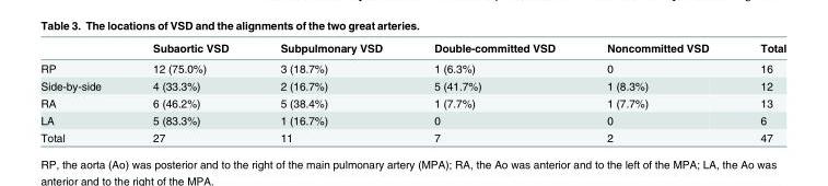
<table><thead><tr><td></td><td>Subaortic VSD</td><td>Subpulmonary VSD</td><td>Double-committed VSD</td><td>Noncommitted VSD</td><td>Total</td></tr></thead><tbody><tr><td>RP</td><td>12 (75.0%)</td><td>3 (18.7%)</td><td>1 (6.3%)</td><td>0</td><td>16</td></tr><tr><td>Side-by-side</td><td>4 (33.3%)</td><td>2 (16.7%)</td><td>5 (41.7%)</td><td>1 (8.3%)</td><td>12</td></tr><tr><td>RA</td><td>6 (46.2%)</td><td>5 (38.4%)</td><td>1 (7.7%)</td><td>1 (7.7%)</td><td>13</td></tr><tr><td>LA</td><td>5 (83.3%)</td><td>1 (16.7%)</td><td>0</td><td>0</td><td>6</td></tr><tr><td>Total</td><td>27</td><td>11</td><td>7</td><td>2</td><td>47</td></tr></tbody></table>